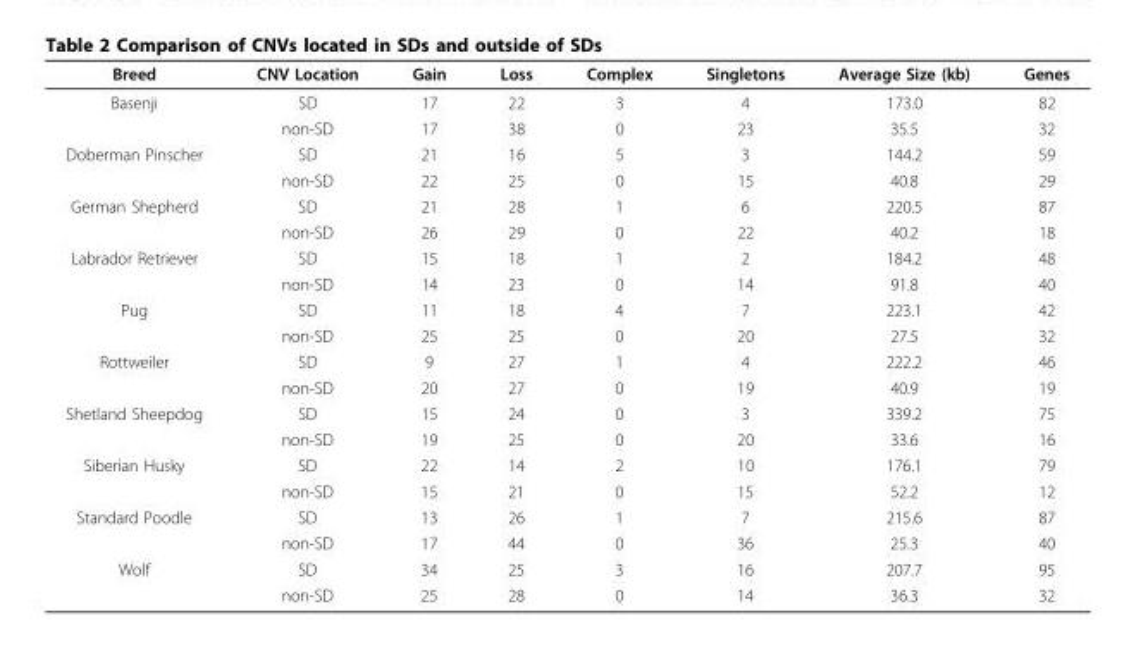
<table><thead><tr><td>Breed</td><td>CNV Location</td><td>Gain</td><td>Loss</td><td>Complex</td><td>Singletons</td><td>Average Size (kb)</td><td>Genes</td></tr></thead><tbody><tr><td rowspan="2">Basenji</td><td>SD</td><td>17</td><td>22</td><td>3</td><td>4</td><td>173.0</td><td>82</td></tr><tr><td>non-SD</td><td>17</td><td>38</td><td>0</td><td>23</td><td>35.5</td><td>32</td></tr><tr><td rowspan="2">Doberman Pinscher</td><td>SD</td><td>21</td><td>16</td><td>5</td><td>3</td><td>144.2</td><td>59</td></tr><tr><td>non-SD</td><td>22</td><td>25</td><td>0</td><td>15</td><td>40.8</td><td>29</td></tr><tr><td rowspan="2">German Shepherd</td><td>SD</td><td>21</td><td>28</td><td>1</td><td>6</td><td>220.5</td><td>87</td></tr><tr><td>non-SD</td><td>26</td><td>29</td><td>0</td><td>22</td><td>40.2</td><td>18</td></tr><tr><td rowspan="2">Labrador Retriever</td><td>SD</td><td>15</td><td>18</td><td>1</td><td>2</td><td>184.2</td><td>48</td></tr><tr><td>non-SD</td><td>14</td><td>23</td><td>0</td><td>14</td><td>91.8</td><td>40</td></tr><tr><td rowspan="2">Pug</td><td>SD</td><td>11</td><td>18</td><td>4</td><td>7</td><td>223.1</td><td>42</td></tr><tr><td>non-SD</td><td>25</td><td>25</td><td>0</td><td>20</td><td>27.5</td><td>32</td></tr><tr><td rowspan="2">Rottweiler</td><td>SD</td><td>9</td><td>27</td><td>1</td><td>4</td><td>222.2</td><td>46</td></tr><tr><td>non-SD</td><td>20</td><td>27</td><td>0</td><td>19</td><td>40.9</td><td>19</td></tr><tr><td rowspan="2">Shetland Sheepdog</td><td>SD</td><td>15</td><td>24</td><td>0</td><td>3</td><td>339.2</td><td>75</td></tr><tr><td>non-SD</td><td>19</td><td>25</td><td>0</td><td>20</td><td>33.6</td><td>16</td></tr><tr><td rowspan="2">Siberian Husky</td><td>SD</td><td>22</td><td>14</td><td>2</td><td>10</td><td>176.1</td><td>79</td></tr><tr><td>non-SD</td><td>15</td><td>21</td><td>0</td><td>15</td><td>52.2</td><td>12</td></tr><tr><td rowspan="2">Standard Poodle</td><td>SD</td><td>13</td><td>26</td><td>1</td><td>7</td><td>215.6</td><td>87</td></tr><tr><td>non-SD</td><td>17</td><td>44</td><td>0</td><td>36</td><td>25.3</td><td>40</td></tr><tr><td rowspan="2">Wolf</td><td>SD</td><td>34</td><td>25</td><td>3</td><td>16</td><td>207.7</td><td>95</td></tr><tr><td>non-SD</td><td>25</td><td>28</td><td>0</td><td>14</td><td>36.3</td><td>32</td></tr></tbody></table>